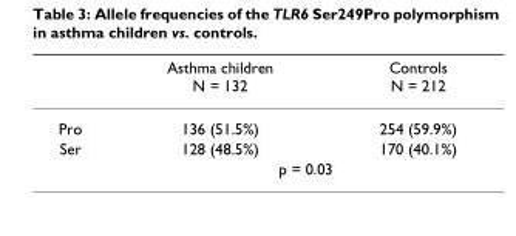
<table><thead><tr><td></td><td>Asthma children N = 132</td><td>Controls N = 212</td></tr></thead><tbody><tr><td>Pro</td><td>136 (51.5%)</td><td>254 (59.9%)</td></tr><tr><td rowspan="2">Ser</td><td>128 (48.5%)</td><td>170 (40.1%)</td></tr><tr><td colspan="2">p = 0.03</td></tr></tbody></table>